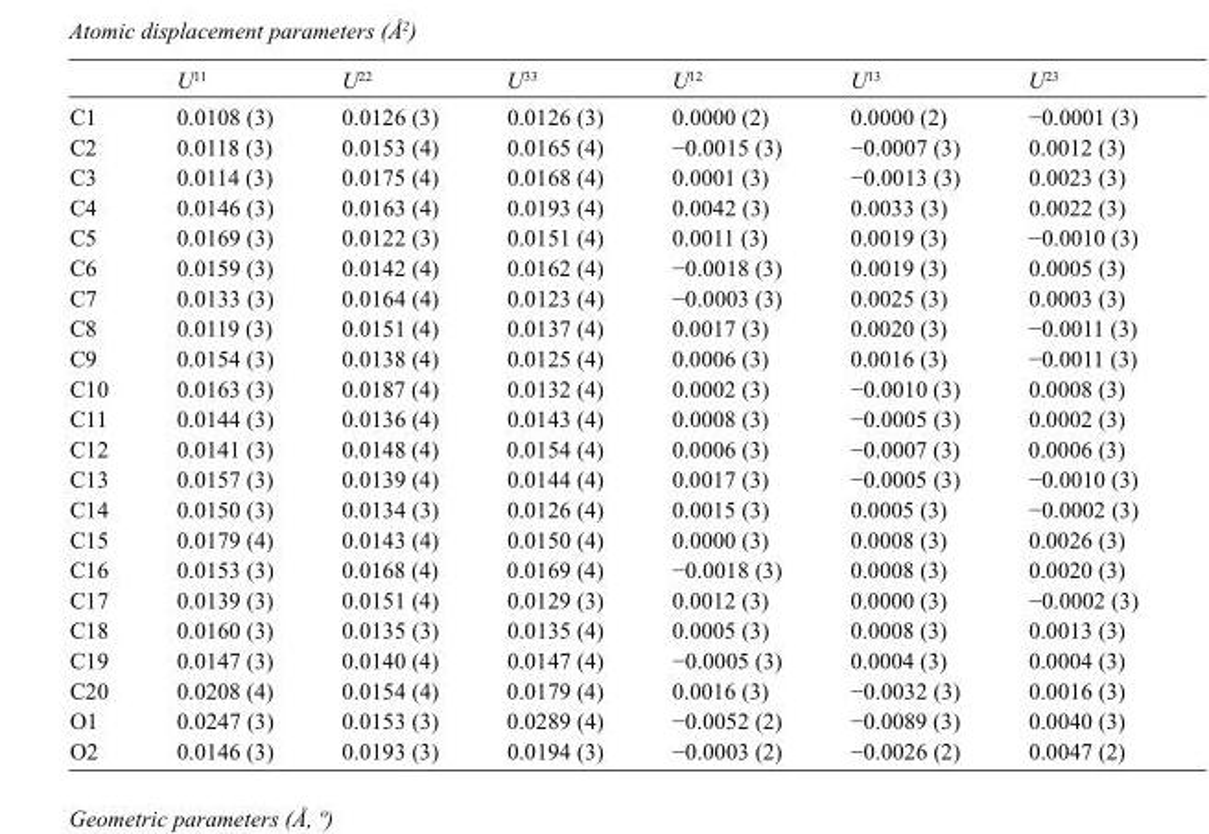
<table><thead><tr><td></td><td>U<sup>11</sup></td><td>U<sup>22</sup></td><td>U<sup>33</sup></td><td>U<sup>12</sup></td><td>U<sup>13</sup></td><td>U<sup>23</sup></td></tr></thead><tbody><tr><td>C1</td><td>0.0108 (3)</td><td>0.0126 (3)</td><td>0.0126 (3)</td><td>0.0000 (2)</td><td>0.0000 (2)</td><td>−0.0001 (3)</td></tr><tr><td>C2</td><td>0.0118 (3)</td><td>0.0153 (4)</td><td>0.0165 (4)</td><td>−0.0015 (3)</td><td>−0.0007 (3)</td><td>0.0012 (3)</td></tr><tr><td>C3</td><td>0.0114 (3)</td><td>0.0175 (4)</td><td>0.0168 (4)</td><td>0.0001 (3)</td><td>−0.0013 (3)</td><td>0.0023 (3)</td></tr><tr><td>C4</td><td>0.0146 (3)</td><td>0.0163 (4)</td><td>0.0193 (4)</td><td>0.0042 (3)</td><td>0.0033 (3)</td><td>0.0022 (3)</td></tr><tr><td>C5</td><td>0.0169 (3)</td><td>0.0122 (3)</td><td>0.0151 (4)</td><td>0.0011 (3)</td><td>0.0019 (3)</td><td>−0.0010 (3)</td></tr><tr><td>C6</td><td>0.0159 (3)</td><td>0.0142 (4)</td><td>0.0162 (4)</td><td>−0.0018 (3)</td><td>0.0019 (3)</td><td>0.0005 (3)</td></tr><tr><td>C7</td><td>0.0133 (3)</td><td>0.0164 (4)</td><td>0.0123 (4)</td><td>−0.0003 (3)</td><td>0.0025 (3)</td><td>0.0003 (3)</td></tr><tr><td>C8</td><td>0.0119 (3)</td><td>0.0151 (4)</td><td>0.0137 (4)</td><td>0.0017 (3)</td><td>0.0020 (3)</td><td>−0.0011 (3)</td></tr><tr><td>C9</td><td>0.0154 (3)</td><td>0.0138 (4)</td><td>0.0125 (4)</td><td>0.0006 (3)</td><td>0.0016 (3)</td><td>−0.0011 (3)</td></tr><tr><td>C10</td><td>0.0163 (3)</td><td>0.0187 (4)</td><td>0.0132 (4)</td><td>0.0002 (3)</td><td>−0.0010 (3)</td><td>0.0008 (3)</td></tr><tr><td>C11</td><td>0.0144 (3)</td><td>0.0136 (4)</td><td>0.0143 (4)</td><td>0.0008 (3)</td><td>−0.0005 (3)</td><td>0.0002 (3)</td></tr><tr><td>C12</td><td>0.0141 (3)</td><td>0.0148 (4)</td><td>0.0154 (4)</td><td>0.0006 (3)</td><td>−0.0007 (3)</td><td>0.0006 (3)</td></tr><tr><td>C13</td><td>0.0157 (3)</td><td>0.0139 (4)</td><td>0.0144 (4)</td><td>0.0017 (3)</td><td>−0.0005 (3)</td><td>−0.0010 (3)</td></tr><tr><td>C14</td><td>0.0150 (3)</td><td>0.0134 (3)</td><td>0.0126 (4)</td><td>0.0015 (3)</td><td>0.0005 (3)</td><td>−0.0002 (3)</td></tr><tr><td>C15</td><td>0.0179 (4)</td><td>0.0143 (4)</td><td>0.0150 (4)</td><td>0.0000 (3)</td><td>0.0008 (3)</td><td>0.0026 (3)</td></tr><tr><td>C16</td><td>0.0153 (3)</td><td>0.0168 (4)</td><td>0.0169 (4)</td><td>−0.0018 (3)</td><td>0.0008 (3)</td><td>0.0020 (3)</td></tr><tr><td>C17</td><td>0.0139 (3)</td><td>0.0151 (4)</td><td>0.0129 (3)</td><td>0.0012 (3)</td><td>0.0000 (3)</td><td>−0.0002 (3)</td></tr><tr><td>C18</td><td>0.0160 (3)</td><td>0.0135 (3)</td><td>0.0135 (4)</td><td>0.0005 (3)</td><td>0.0008 (3)</td><td>0.0013 (3)</td></tr><tr><td>C19</td><td>0.0147 (3)</td><td>0.0140 (4)</td><td>0.0147 (4)</td><td>−0.0005 (3)</td><td>0.0004 (3)</td><td>0.0004 (3)</td></tr><tr><td>C20</td><td>0.0208 (4)</td><td>0.0154 (4)</td><td>0.0179 (4)</td><td>0.0016 (3)</td><td>−0.0032 (3)</td><td>0.0016 (3)</td></tr><tr><td>O1</td><td>0.0247 (3)</td><td>0.0153 (3)</td><td>0.0289 (4)</td><td>−0.0052 (2)</td><td>−0.0089 (3)</td><td>0.0040 (3)</td></tr><tr><td>O2</td><td>0.0146 (3)</td><td>0.0193 (3)</td><td>0.0194 (3)</td><td>−0.0003 (2)</td><td>−0.0026 (2)</td><td>0.0047 (2)</td></tr></tbody></table>